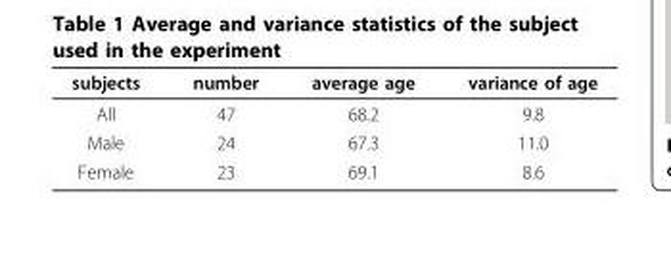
<table><thead><tr><td>subjects</td><td>number</td><td>average age</td><td>variance of age</td></tr></thead><tbody><tr><td>All</td><td>47</td><td>68.2</td><td>9.8</td></tr><tr><td>Male</td><td>24</td><td>67.3</td><td>11.0</td></tr><tr><td>Female</td><td>23</td><td>69.1</td><td>8.6</td></tr></tbody></table>